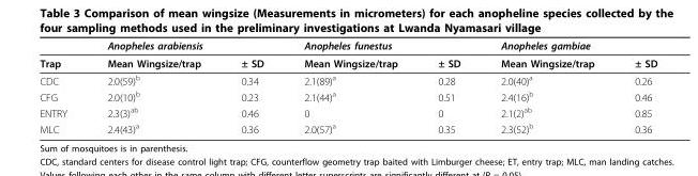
<table><thead><tr><td rowspan="2">Trap</td><td colspan="2">Anopheles arabiensis</td><td colspan="2">Anopheles funestus</td><td colspan="2">Anopheles gambiae</td></tr><tr><td>Mean Wingsize/trap</td><td>± SD</td><td>Mean Wingsize/trap</td><td>± SD</td><td>Mean Wingsize/trap</td><td>± SD</td></tr></thead><tbody><tr><td>CDC</td><td>2.0(59)b</td><td>0.34</td><td>2.1(89)a</td><td>0.28</td><td>2.0(40)a</td><td>0.26</td></tr><tr><td>CFG</td><td>2.0(10)b</td><td>0.23</td><td>2.1(44)a</td><td>0.51</td><td>2.4(16)b</td><td>0.46</td></tr><tr><td>ENTRY</td><td>2.3(3)ab</td><td>0.46</td><td>0</td><td>0</td><td>2.1(2)ab</td><td>0.85</td></tr><tr><td>MLC</td><td>2.4(43)a</td><td>0.36</td><td>2.0(57)a</td><td>0.35</td><td>2.3(52)b</td><td>0.36</td></tr></tbody></table>